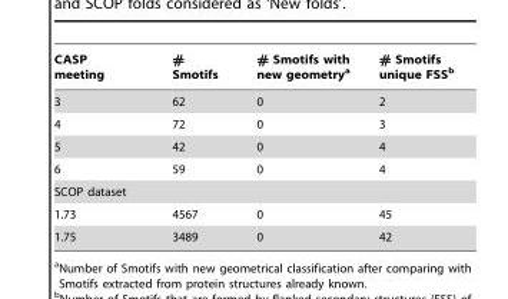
<table><thead><tr><td>CASP meeting</td><td># Smotifs</td><td># Smotifs with new geometry<sup>a</sup></td><td># Smotifs unique FSS<sup>b</sup></td></tr></thead><tbody><tr><td>3</td><td>62</td><td>0</td><td>2</td></tr><tr><td>4</td><td>72</td><td>0</td><td>3</td></tr><tr><td>5</td><td>42</td><td>0</td><td>4</td></tr><tr><td>6</td><td>59</td><td>0</td><td>4</td></tr><tr><td colspan="4">SCOP dataset</td></tr><tr><td>1.73</td><td>4567</td><td>0</td><td>45</td></tr><tr><td>1.75</td><td>3489</td><td>0</td><td>42</td></tr></tbody></table>